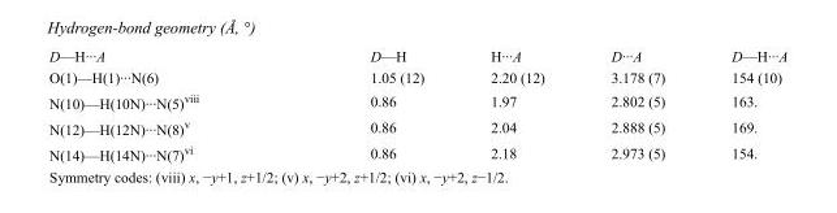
<table><tbody><tr><td>D—H···A</td><td>D—H</td><td>H···A</td><td>D···A</td><td>D—H···A</td></tr><tr><td>O(1)—H(1)···N(6)</td><td>1.05 (12)</td><td>2.20 (12)</td><td>3.178 (7)</td><td>154 (10)</td></tr><tr><td>N(10)—H(10N)···N(5)<sup>viii</sup></td><td>0.86</td><td>1.97</td><td>2.802 (5)</td><td>163.</td></tr><tr><td>N(12)—H(12N)···N(8)<sup>v</sup></td><td>0.86</td><td>2.04</td><td>2.888 (5)</td><td>169.</td></tr><tr><td>N(14)—H(14N)···N(7)<sup>vi</sup></td><td>0.86</td><td>2.18</td><td>2.973 (5)</td><td>154.</td></tr></tbody></table>